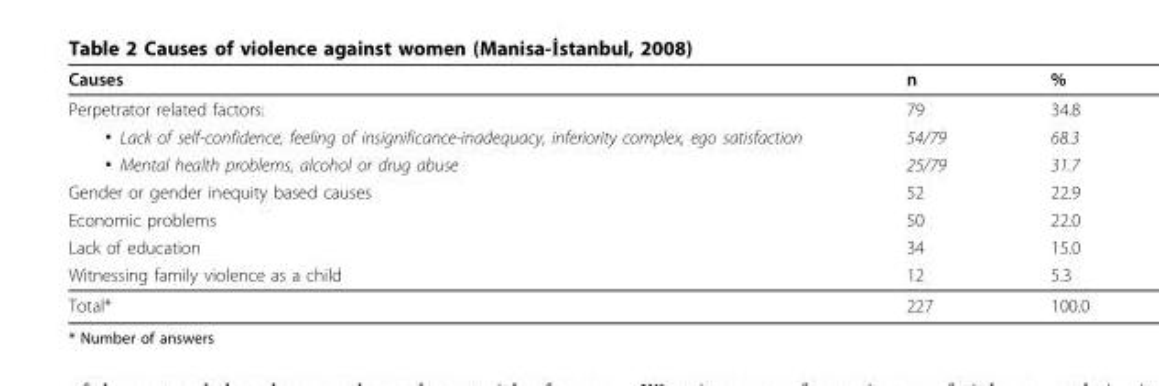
<table><thead><tr><td>Causes</td><td>n</td><td>%</td></tr></thead><tbody><tr><td>Perpetrator related factors:</td><td>79</td><td>34.8</td></tr><tr><td>▪ Lack of self-confidence, feeling of insignificance-inadequacy, inferiority complex, ego satisfaction</td><td>54/79</td><td>68.3</td></tr><tr><td>▪ Mental health problems, alcohol or drug abuse</td><td>25/79</td><td>31.7</td></tr><tr><td>Gender or gender inequity based causes</td><td>52</td><td>22.9</td></tr><tr><td>Economic problems</td><td>50</td><td>22.0</td></tr><tr><td>Lack of education</td><td>34</td><td>15.0</td></tr><tr><td>Witnessing family violence as a child</td><td>12</td><td>5.3</td></tr><tr><td>Total*</td><td>227</td><td>100.0</td></tr></tbody></table>